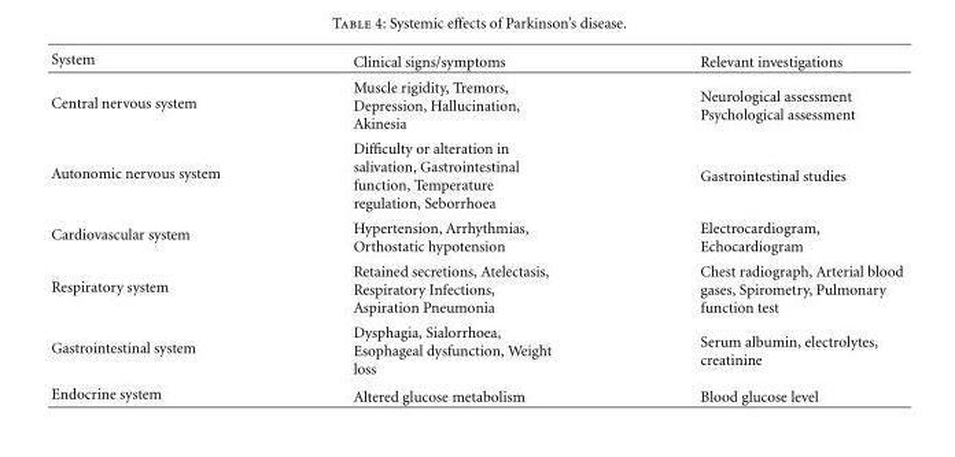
<table><thead><tr><td>System</td><td>Clinical signs/symptoms</td><td>Relevant investigations</td></tr></thead><tbody><tr><td>Central nervous system</td><td>Muscle rigidity, Tremors, Depression, Hallucination, Akinesia</td><td>Neurological assessment Psychological assessment</td></tr><tr><td>Autonomic nervous system</td><td>Difficulty or alteration in salivation, Gastrointestinal function, Temperature regulation, Seborrhoea</td><td>Gastrointestinal studies</td></tr><tr><td>Cardiovascular system</td><td>Hypertension, Arrhythmias, Orthostatic hypotension</td><td>Electrocardiogram, Echocardiogram</td></tr><tr><td>Respiratory system</td><td>Retained secretions, Atelectasis, Respiratory Infections, Aspiration Pneumonia</td><td>Chest radiograph, Arterial blood gases, Spirometry, Pulmonary function test</td></tr><tr><td>Gastrointestinal system</td><td>Dysphagia, Sialorrhoea, Esophageal dysfunction, Weight loss</td><td>Serum albumin, electrolytes, creatinine</td></tr><tr><td>Endocrine system</td><td>Altered glucose metabolism</td><td>Blood glucose level</td></tr></tbody></table>